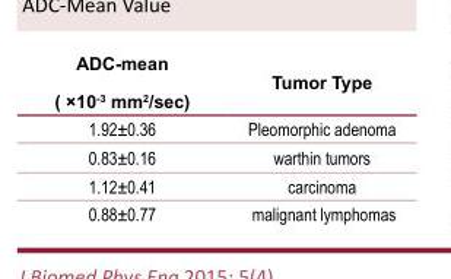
<table><thead><tr><td>ADC-mean ( ×10<sup>-3</sup> mm<sup>2</sup>/sec)</td><td>Tumor Type</td></tr></thead><tbody><tr><td>1.92±0.36</td><td>Pleomorphic adenoma</td></tr><tr><td>0.83±0.16</td><td>warthin tumors</td></tr><tr><td>1.12±0.41</td><td>carcinoma</td></tr><tr><td>0.88±0.77</td><td>malignant lymphomas</td></tr></tbody></table>